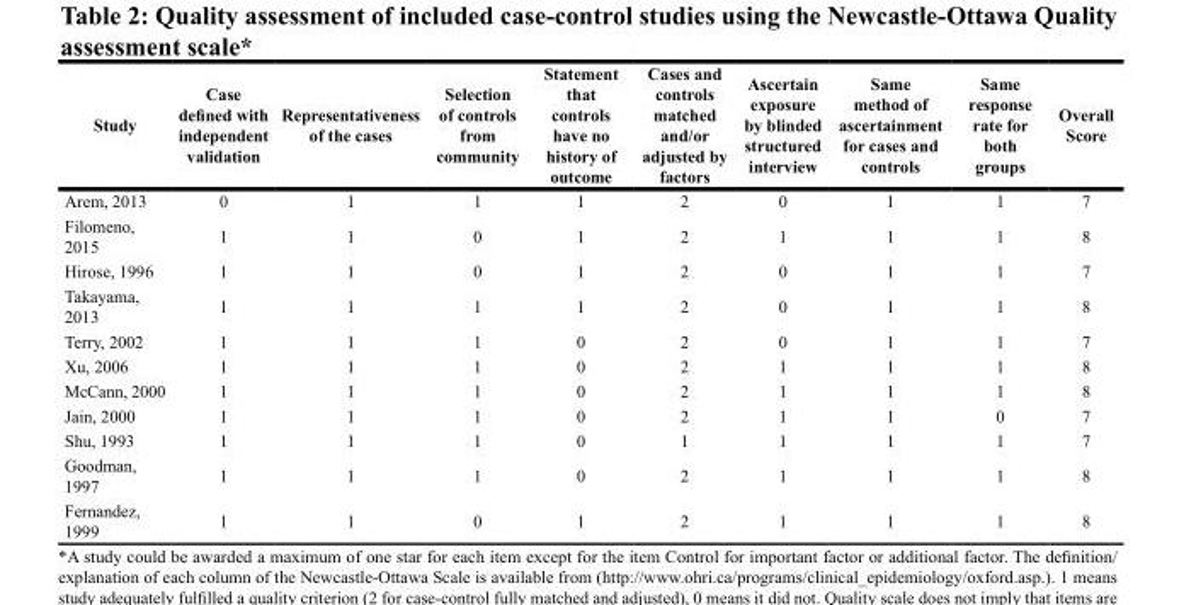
<table><thead><tr><td>Study</td><td>Case defined with independent validation</td><td>Representativeness of the cases</td><td>Selection of controls from community</td><td>Statement that controls have no history of outcome</td><td>Cases and controls matched and/or adjusted by factors</td><td>Ascertain exposure by blinded structured interview</td><td>Same method of ascertainment for cases and controls</td><td>Same response rate for both groups</td><td>Overall Score</td></tr></thead><tbody><tr><td>Arem, 2013</td><td>0</td><td>1</td><td>1</td><td>1</td><td>2</td><td>0</td><td>1</td><td>1</td><td>7</td></tr><tr><td>Filomeno, 2015</td><td>1</td><td>1</td><td>0</td><td>1</td><td>2</td><td>1</td><td>1</td><td>1</td><td>8</td></tr><tr><td>Hirose, 1996</td><td>1</td><td>1</td><td>0</td><td>1</td><td>2</td><td>0</td><td>1</td><td>1</td><td>7</td></tr><tr><td>Takayama, 2013</td><td>1</td><td>1</td><td>1</td><td>1</td><td>2</td><td>0</td><td>1</td><td>1</td><td>8</td></tr><tr><td>Terry, 2002</td><td>1</td><td>1</td><td>1</td><td>0</td><td>2</td><td>0</td><td>1</td><td>1</td><td>7</td></tr><tr><td>Xu, 2006</td><td>1</td><td>1</td><td>1</td><td>0</td><td>2</td><td>1</td><td>1</td><td>1</td><td>8</td></tr><tr><td>McCann, 2000</td><td>1</td><td>1</td><td>1</td><td>0</td><td>2</td><td>1</td><td>1</td><td>1</td><td>8</td></tr><tr><td>Jain, 2000</td><td>1</td><td>1</td><td>1</td><td>0</td><td>2</td><td>1</td><td>1</td><td>0</td><td>7</td></tr><tr><td>Shu, 1993</td><td>1</td><td>1</td><td>1</td><td>0</td><td>1</td><td>1</td><td>1</td><td>1</td><td>7</td></tr><tr><td>Goodman, 1997</td><td>1</td><td>1</td><td>1</td><td>0</td><td>2</td><td>1</td><td>1</td><td>1</td><td>8</td></tr><tr><td>Fernandez, 1999</td><td>1</td><td>1</td><td>0</td><td>1</td><td>2</td><td>1</td><td>1</td><td>1</td><td>8</td></tr></tbody></table>